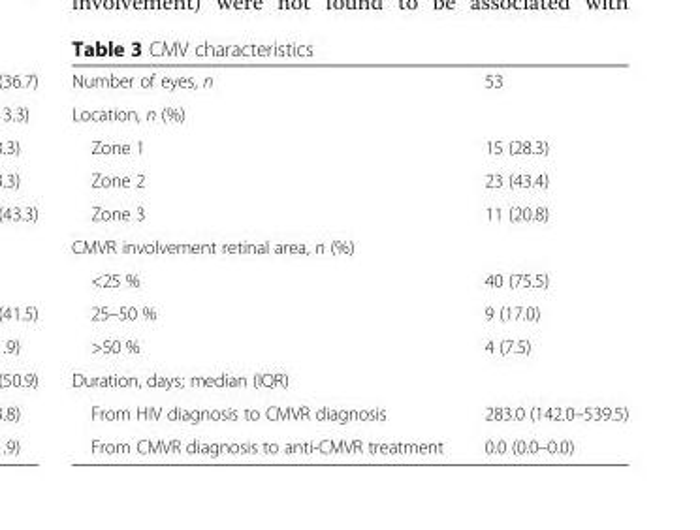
<table><tbody><tr><td>Number of eyes, n</td><td>53</td></tr><tr><td colspan="2">Location, n (%)</td></tr><tr><td>Zone 1</td><td>15 (28.3)</td></tr><tr><td>Zone 2</td><td>23 (43.4)</td></tr><tr><td>Zone 3</td><td>11 (20.8)</td></tr><tr><td colspan="2">CMVR involvement retinal area, n (%)</td></tr><tr><td>&lt;25 %</td><td>40 (75.5)</td></tr><tr><td>25–50 %</td><td>9 (17.0)</td></tr><tr><td>&gt;50 %</td><td>4 (7.5)</td></tr><tr><td colspan="2">Duration, days; median (IQR)</td></tr><tr><td>From HIV diagnosis to CMVR diagnosis</td><td>283.0 (142.0–539.5)</td></tr><tr><td>From CMVR diagnosis to anti-CMVR treatment</td><td>0.0 (0.0–0.0)</td></tr></tbody></table>